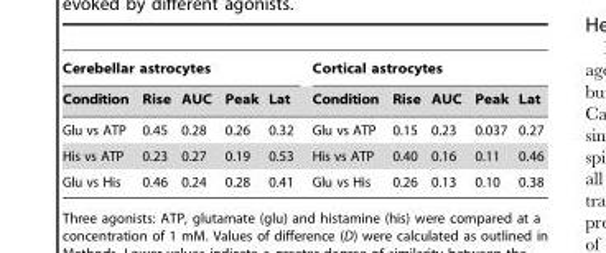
<table><thead><tr><td colspan="5">Cerebellar astrocytes</td><td colspan="5">Cortical astrocytes</td></tr><tr><td>Condition</td><td>Rise</td><td>AUC</td><td>Peak</td><td>Lat</td><td>Condition</td><td>Rise</td><td>AUC</td><td>Peak</td><td>Lat</td></tr></thead><tbody><tr><td>Glu vs ATP</td><td>0.45</td><td>0.28</td><td>0.26</td><td>0.32</td><td>Glu vs ATP</td><td>0.15</td><td>0.23</td><td>0.037</td><td>0.27</td></tr><tr><td>His vs ATP</td><td>0.23</td><td>0.27</td><td>0.19</td><td>0.53</td><td>His vs ATP</td><td>0.40</td><td>0.16</td><td>0.11</td><td>0.46</td></tr><tr><td>Glu vs His</td><td>0.46</td><td>0.24</td><td>0.28</td><td>0.41</td><td>Glu vs His</td><td>0.26</td><td>0.13</td><td>0.10</td><td>0.38</td></tr></tbody></table>